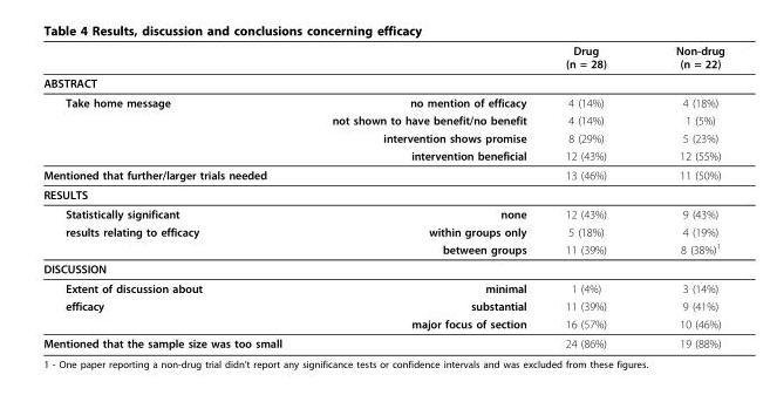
<table><thead><tr><td></td><td></td><td>Drug (n = 28)</td><td>Non-drug (n = 22)</td></tr></thead><tbody><tr><td colspan="4">ABSTRACT</td></tr><tr><td rowspan="4">Take home message</td><td>no mention of efficacy</td><td>4 (14%)</td><td>4 (18%)</td></tr><tr><td>not shown to have benefit/no benefit</td><td>4 (14%)</td><td>1 (5%)</td></tr><tr><td>intervention shows promise</td><td>8 (29%)</td><td>5 (23%)</td></tr><tr><td>intervention beneficial</td><td>12 (43%)</td><td>12 (55%)</td></tr><tr><td colspan="2">Mentioned that further/larger trials needed</td><td>13 (46%)</td><td>11 (50%)</td></tr><tr><td colspan="4">RESULTS</td></tr><tr><td>Statistically significant</td><td>none</td><td>12 (43%)</td><td>9 (43%)</td></tr><tr><td rowspan="2">results relating to efficacy</td><td>within groups only</td><td>5 (18%)</td><td>4 (19%)</td></tr><tr><td>between groups</td><td>11 (39%)</td><td>8 (38%)<sup>1</sup></td></tr><tr><td colspan="4">DISCUSSION</td></tr><tr><td>Extent of discussion about</td><td>minimal</td><td>1 (4%)</td><td>3 (14%)</td></tr><tr><td rowspan="2">efficacy</td><td>substantial</td><td>11 (39%)</td><td>9 (41%)</td></tr><tr><td>major focus of section</td><td>16 (57%)</td><td>10 (46%)</td></tr><tr><td colspan="2">Mentioned that the sample size was too small</td><td>24 (86%)</td><td>19 (88%)</td></tr></tbody></table>